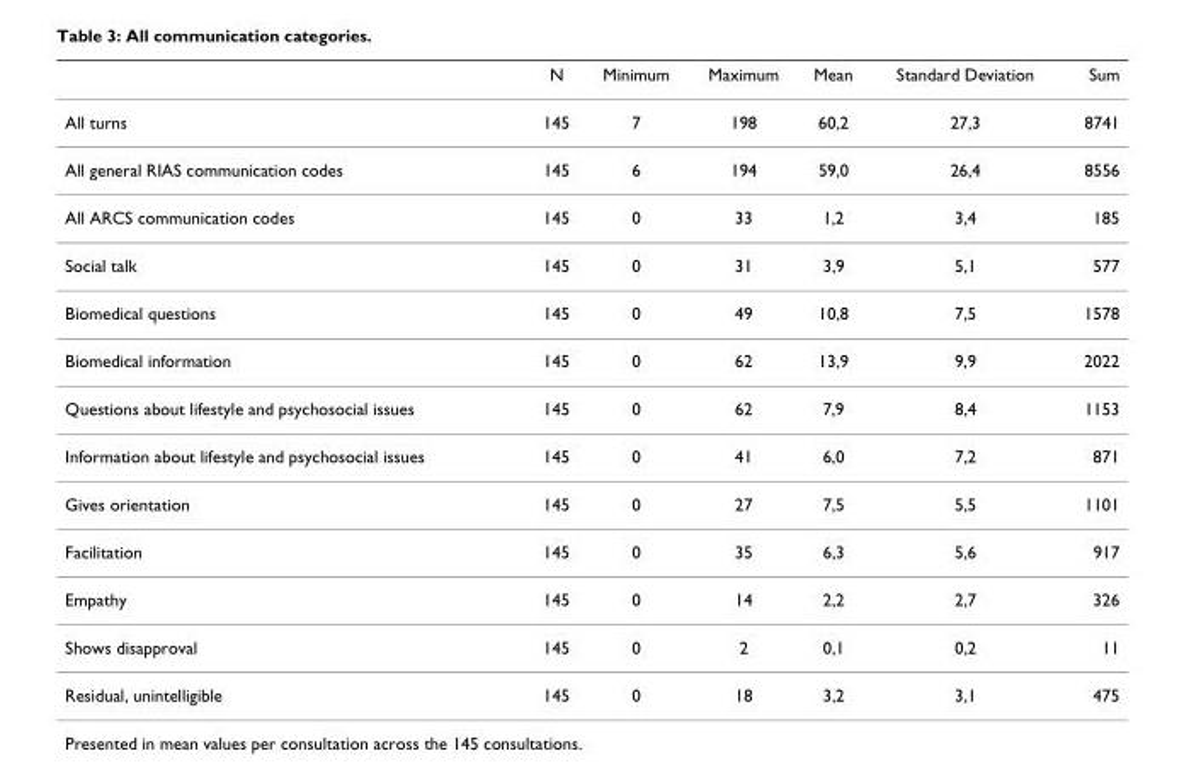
<table><thead><tr><td></td><td>N</td><td>Minimum</td><td>Maximum</td><td>Mean</td><td>Standard Deviation</td><td>Sum</td></tr></thead><tbody><tr><td>All turns</td><td>145</td><td>7</td><td>198</td><td>60,2</td><td>27,3</td><td>8741</td></tr><tr><td>All general RIAS communication codes</td><td>145</td><td>6</td><td>194</td><td>59,0</td><td>26,4</td><td>8556</td></tr><tr><td>All ARCS communication codes</td><td>145</td><td>0</td><td>33</td><td>1,2</td><td>3,4</td><td>185</td></tr><tr><td>Social talk</td><td>145</td><td>0</td><td>31</td><td>3,9</td><td>5,1</td><td>577</td></tr><tr><td>Biomedical questions</td><td>145</td><td>0</td><td>49</td><td>10,8</td><td>7,5</td><td>1578</td></tr><tr><td>Biomedical information</td><td>145</td><td>0</td><td>62</td><td>13,9</td><td>9,9</td><td>2022</td></tr><tr><td>Questions about lifestyle and psychosocial issues</td><td>145</td><td>0</td><td>62</td><td>7,9</td><td>8,4</td><td>1153</td></tr><tr><td>Information about lifestyle and psychosocial issues</td><td>145</td><td>0</td><td>41</td><td>6,0</td><td>7,2</td><td>871</td></tr><tr><td>Gives orientation</td><td>145</td><td>0</td><td>27</td><td>7,5</td><td>5,5</td><td>1101</td></tr><tr><td>Facilitation</td><td>145</td><td>0</td><td>35</td><td>6,3</td><td>5,6</td><td>917</td></tr><tr><td>Empathy</td><td>145</td><td>0</td><td>14</td><td>2,2</td><td>2,7</td><td>326</td></tr><tr><td>Shows disapproval</td><td>145</td><td>0</td><td>2</td><td>0,1</td><td>0,2</td><td>11</td></tr><tr><td>Residual, unintelligible</td><td>145</td><td>0</td><td>18</td><td>3,2</td><td>3,1</td><td>475</td></tr></tbody></table>